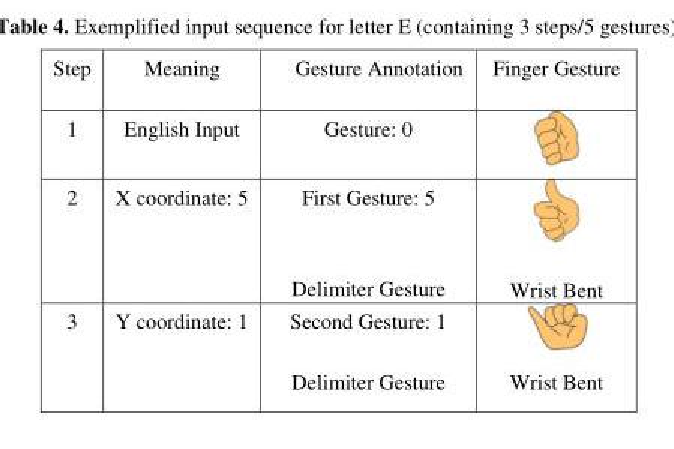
<table><thead><tr><td>Step</td><td>Meaning</td><td>Gesture Annotation</td><td>Finger Gesture</td></tr></thead><tbody><tr><td>1</td><td>English Input</td><td>Gesture: 0</td><td></td></tr><tr><td>2</td><td>X coordinate: 5</td><td>First Gesture: 5 Delimiter Gesture</td><td>Wrist Bent</td></tr><tr><td>3</td><td>Y coordinate: 1</td><td>Second Gesture: 1 Delimiter Gesture</td><td>Wrist Bent</td></tr></tbody></table>